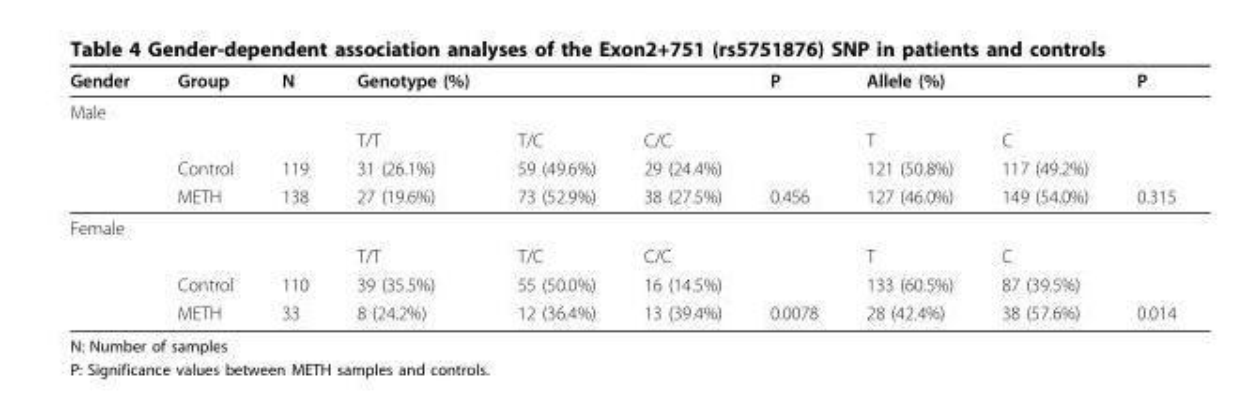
<table><thead><tr><td>Gender</td><td>Group</td><td>N</td><td>Genotype (%)</td><td></td><td></td><td>P</td><td>Allele (%)</td><td></td><td>P</td></tr></thead><tbody><tr><td colspan="10">Male</td></tr><tr><td></td><td></td><td></td><td>T/T</td><td>T/C</td><td>C/C</td><td></td><td>T</td><td>C</td><td></td></tr><tr><td></td><td>Control</td><td>119</td><td>31 (26.1%)</td><td>59 (49.6%)</td><td>29 (24.4%)</td><td></td><td>121 (50.8%)</td><td>117 (49.2%)</td><td></td></tr><tr><td></td><td>METH</td><td>138</td><td>27 (19.6%)</td><td>73 (52.9%)</td><td>38 (27.5%)</td><td>0.456</td><td>127 (46.0%)</td><td>149 (54.0%)</td><td>0.315</td></tr><tr><td colspan="10">Female</td></tr><tr><td></td><td></td><td></td><td>T/T</td><td>T/C</td><td>C/C</td><td></td><td>T</td><td>C</td><td></td></tr><tr><td></td><td>Control</td><td>110</td><td>39 (35.5%)</td><td>55 (50.0%)</td><td>16 (14.5%)</td><td></td><td>133 (60.5%)</td><td>87 (39.5%)</td><td></td></tr><tr><td></td><td>METH</td><td>33</td><td>8 (24.2%)</td><td>12 (36.4%)</td><td>13 (39.4%)</td><td>0.0078</td><td>28 (42.4%)</td><td>38 (57.6%)</td><td>0.014</td></tr></tbody></table>